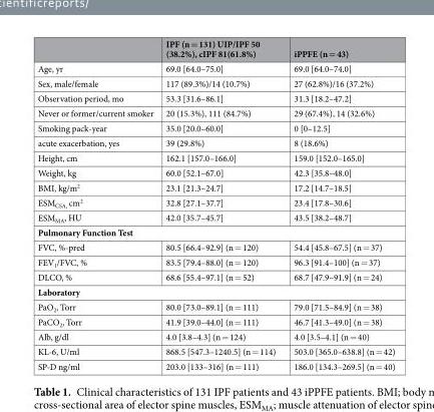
<table><thead><tr><td></td><td>IPF (n = 131) UIP/IPF 50 (38.2%), cIPF 81(61.8%)</td><td>iPPFE (n = 43)</td></tr></thead><tbody><tr><td>Age, yr</td><td>69.0 [64.0–75.0]</td><td>69.0 [64.0–74.0]</td></tr><tr><td>Sex, male/female</td><td>117 (89.3%)/14 (10.7%)</td><td>27 (62.8%)/16 (37.2%)</td></tr><tr><td>Observation period, mo</td><td>53.3 [31.6–86.1]</td><td>31.3 [18.2–47.2]</td></tr><tr><td>Never or former/current smoker</td><td>20 (15.3%), 111 (84.7%)</td><td>29 (67.4%), 14 (32.6%)</td></tr><tr><td>Smoking pack-year</td><td>35.0 [20.0–60.0]</td><td>0 [0–12.5]</td></tr><tr><td>acute exacerbation, yes</td><td>39 (29.8%)</td><td>8 (18.6%)</td></tr><tr><td>Height, cm</td><td>162.1 [157.0–166.0]</td><td>159.0 [152.0–165.0]</td></tr><tr><td>Weight, kg</td><td>60.0 [52.1–67.0]</td><td>42.3 [35.8–48.0]</td></tr><tr><td>BMI, kg/m<sup>2</sup></td><td>23.1 [21.3–24.7]</td><td>17.2 [14.7–18.5]</td></tr><tr><td>ESM<sub>CSA,</sub> cm<sup>2</sup></td><td>32.8 [27.1–37.7]</td><td>23.4 [17.8–30.6]</td></tr><tr><td>ESM<sub>MA</sub>, HU</td><td>42.0 [35.7–45.7]</td><td>43.5 [38.2–48.7]</td></tr><tr><td colspan="3">Pulmonary Function Test</td></tr><tr><td>FVC, %-pred</td><td>80.5 [66.4–92.9] (n = 120)</td><td>54.4 [45.8–67.5] (n = 37)</td></tr><tr><td>FEV<sub>1</sub>/FVC, %</td><td>83.5 [79.4–88.0] (n = 120)</td><td>96.3 [91.4–100] (n = 37)</td></tr><tr><td>DLCO, %</td><td>68.6 [55.4–97.1] (n = 52)</td><td>68.7 [47.9–91.9] (n = 24)</td></tr><tr><td colspan="3">Laboratory</td></tr><tr><td>PaO<sub>2</sub>, Torr</td><td>80.0 [73.0–89.1] (n = 111)</td><td>79.0 [71.5–84.9] (n = 38)</td></tr><tr><td>PaCO<sub>2</sub>, Torr</td><td>41.9 [39.0–44.0] (n = 111)</td><td>46.7 [41.3–49.0] (n = 38)</td></tr><tr><td>Alb, g/dl</td><td>4.0 [3.8–4.3] (n = 124)</td><td>4.0 [3.5–4.1] (n = 40)</td></tr><tr><td>KL-6, U/ml</td><td>868.5 [547.3–1240.5] (n = 114)</td><td>503.0 [365.0–638.8] (n = 42)</td></tr><tr><td>SP-D ng/ml</td><td>203.0 [133–316] (n = 111)</td><td>186.0 [134.3–269.5] (n = 40)</td></tr></tbody></table>